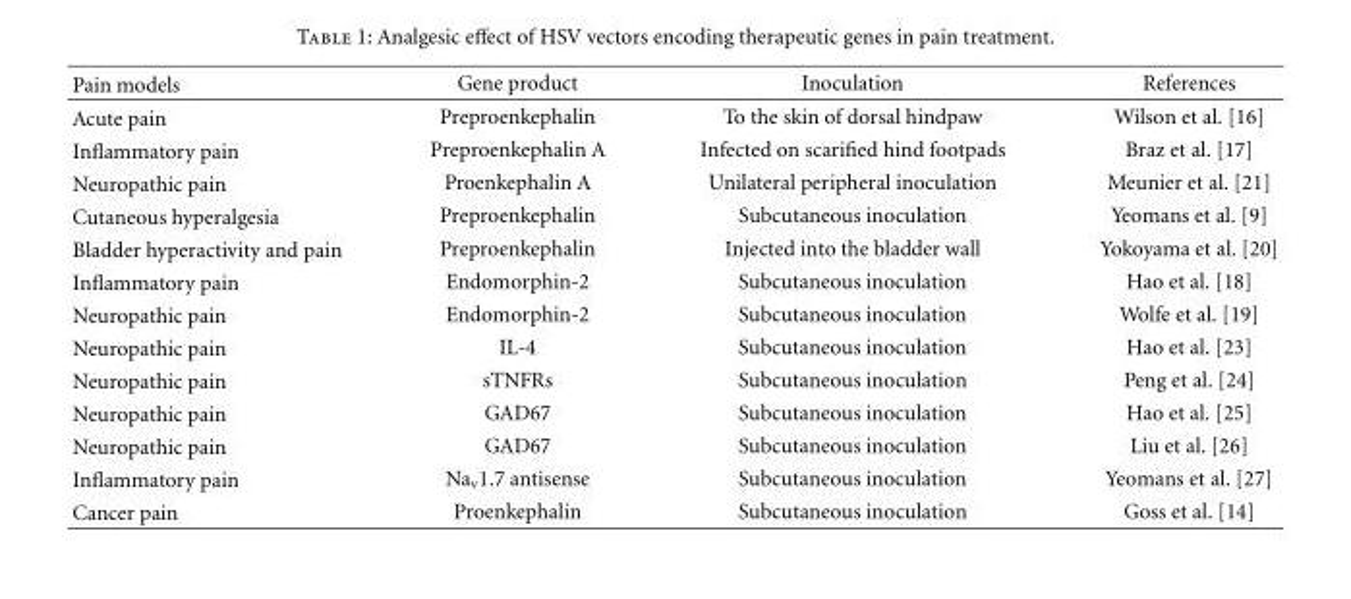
<table><thead><tr><td>Pain models</td><td>Gene product</td><td>Inoculation</td><td>References</td></tr></thead><tbody><tr><td>Acute pain</td><td>Preproenkephalin</td><td>To the skin of dorsal hindpaw</td><td>Wilson et al. [16]</td></tr><tr><td>Inflammatory pain</td><td>Preproenkephalin A</td><td>Infected on scarified hind footpads</td><td>Braz et al. [17]</td></tr><tr><td>Neuropathic pain</td><td>Proenkephalin A</td><td>Unilateral peripheral inoculation</td><td>Meunier et al. [21]</td></tr><tr><td>Cutaneous hyperalgesia</td><td>Preproenkephalin</td><td>Subcutaneous inoculation</td><td>Yeomans et al. [9]</td></tr><tr><td>Bladder hyperactivity and pain</td><td>Preproenkephalin</td><td>Injected into the bladder wall</td><td>Yokoyama et al. [20]</td></tr><tr><td>Inflammatory pain</td><td>Endomorphin-2</td><td>Subcutaneous inoculation</td><td>Hao et al. [18]</td></tr><tr><td>Neuropathic pain</td><td>Endomorphin-2</td><td>Subcutaneous inoculation</td><td>Wolfe et al. [19]</td></tr><tr><td>Neuropathic pain</td><td>IL-4</td><td>Subcutaneous inoculation</td><td>Hao et al. [23]</td></tr><tr><td>Neuropathic pain</td><td>sTNFRs</td><td>Subcutaneous inoculation</td><td>Peng et al. [24]</td></tr><tr><td>Neuropathic pain</td><td>GAD67</td><td>Subcutaneous inoculation</td><td>Hao et al. [25]</td></tr><tr><td>Neuropathic pain</td><td>GAD67</td><td>Subcutaneous inoculation</td><td>Liu et al. [26]</td></tr><tr><td>Inflammatory pain</td><td>Na<sub>v</sub>1.7 antisense</td><td>Subcutaneous inoculation</td><td>Yeomans et al. [27]</td></tr><tr><td>Cancer pain</td><td>Proenkephalin</td><td>Subcutaneous inoculation</td><td>Goss et al. [14]</td></tr></tbody></table>